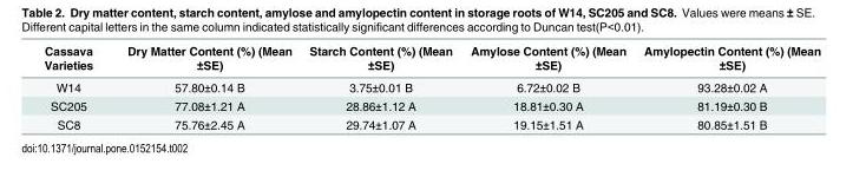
<table><thead><tr><td>Cassava Varieties</td><td>Dry Matter Content (%) (Mean ±SE)</td><td>Starch Content (%) (Mean ±SE)</td><td>Amylose Content (%) (Mean ±SE)</td><td>Amylopectin Content (%) (Mean ±SE)</td></tr></thead><tbody><tr><td>W14</td><td>57.80±0.14 B</td><td>3.75±0.01 B</td><td>6.72±0.02 B</td><td>93.28±0.02 A</td></tr><tr><td>SC205</td><td>77.08±1.21 A</td><td>28.86±1.12 A</td><td>18.81±0.30 A</td><td>81.19±0.30 B</td></tr><tr><td>SC8</td><td>75.76±2.45 A</td><td>29.74±1.07 A</td><td>19.15±1.51 A</td><td>80.85±1.51 B</td></tr></tbody></table>